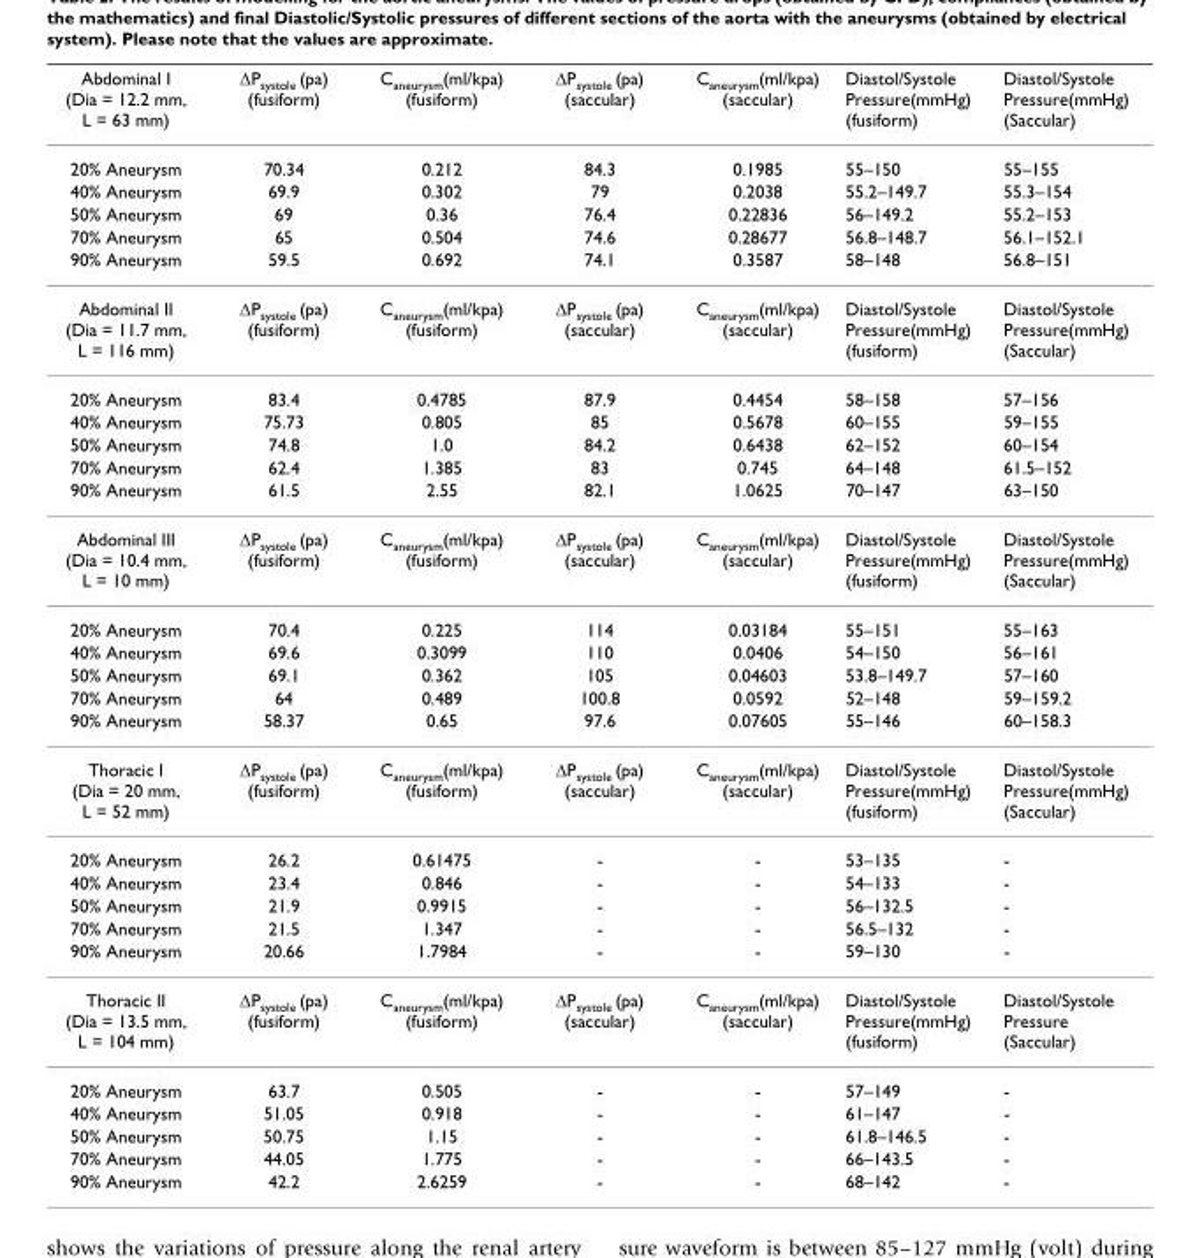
<table><thead><tr><td>Abdominal I (Dia = 12.2 mm, L = 63 mm)</td><td>∆Psystole (pa) (fusiform)</td><td>Caneurysm(ml/kpa) (fusiform)</td><td>∆Psystole (pa) (saccular)</td><td>Caneurysm(ml/kpa) (saccular)</td><td>Diastol/Systole Pressure(mmHg) (fusiform)</td><td>Diastol/Systole Pressure(mmHg) (Saccular)</td></tr></thead><tbody><tr><td>20% Aneurysm</td><td>70.34</td><td>0.212</td><td>84.3</td><td>0.1985</td><td>55–150</td><td>55–155</td></tr><tr><td>40% Aneurysm</td><td>69.9</td><td>0.302</td><td>79</td><td>0.2038</td><td>55.2–149.7</td><td>55.3–154</td></tr><tr><td>50% Aneurysm</td><td>69</td><td>0.36</td><td>76.4</td><td>0.22836</td><td>56–149.2</td><td>55.2–153</td></tr><tr><td>70% Aneurysm</td><td>65</td><td>0.504</td><td>74.6</td><td>0.28677</td><td>56.8–148.7</td><td>56.1–152.1</td></tr><tr><td>90% Aneurysm</td><td>59.5</td><td>0.692</td><td>74.1</td><td>0.3587</td><td>58–148</td><td>56.8–151</td></tr><tr><td>Abdominal II (Dia = 11.7 mm, L = 116 mm)</td><td>∆Psystole (pa) (fusiform)</td><td>Caneurysm(ml/kpa) (fusiform)</td><td>∆Psystole (pa) (saccular)</td><td>Caneurysm(ml/kpa) (saccular)</td><td>Diastol/Systole Pressure(mmHg) (fusiform)</td><td>Diastol/Systole Pressure(mmHg) (Saccular)</td></tr><tr><td>20% Aneurysm</td><td>83.4</td><td>0.4785</td><td>87.9</td><td>0.4454</td><td>58–158</td><td>57–156</td></tr><tr><td>40% Aneurysm</td><td>75.73</td><td>0.805</td><td>85</td><td>0.5678</td><td>60–155</td><td>59–155</td></tr><tr><td>50% Aneurysm</td><td>74.8</td><td>1.0</td><td>84.2</td><td>0.6438</td><td>62–152</td><td>60–154</td></tr><tr><td>70% Aneurysm</td><td>62.4</td><td>1.385</td><td>83</td><td>0.745</td><td>64–148</td><td>61.5–152</td></tr><tr><td>90% Aneurysm</td><td>61.5</td><td>2.55</td><td>82.1</td><td>1.0625</td><td>70–147</td><td>63–150</td></tr><tr><td>Abdominal III (Dia = 10.4 mm, L = 10 mm)</td><td>∆Psystole (pa) (fusiform)</td><td>Caneurysm(ml/kpa) (fusiform)</td><td>∆Psystole (pa) (saccular)</td><td>Caneurysm(ml/kpa) (saccular)</td><td>Diastol/Systole Pressure(mmHg) (fusiform)</td><td>Diastol/Systole Pressure(mmHg) (Saccular)</td></tr><tr><td>20% Aneurysm</td><td>70.4</td><td>0.225</td><td>114</td><td>0.03184</td><td>55–151</td><td>55–163</td></tr><tr><td>40% Aneurysm</td><td>69.6</td><td>0.3099</td><td>110</td><td>0.0406</td><td>54–150</td><td>56–161</td></tr><tr><td>50% Aneurysm</td><td>69.1</td><td>0.362</td><td>105</td><td>0.04603</td><td>53.8–149.7</td><td>57–160</td></tr><tr><td>70% Aneurysm</td><td>64</td><td>0.489</td><td>100.8</td><td>0.0592</td><td>52–148</td><td>59–159.2</td></tr><tr><td>90% Aneurysm</td><td>58.37</td><td>0.65</td><td>97.6</td><td>0.07605</td><td>55–146</td><td>60–158.3</td></tr><tr><td>Thoracic I (Dia = 20 mm, L = 52 mm)</td><td>∆Psystole (pa) (fusiform)</td><td>Caneurysm(ml/kpa) (fusiform)</td><td>∆Psystole (pa) (saccular)</td><td>Caneurysm(ml/kpa) (saccular)</td><td>Diastol/Systole Pressure(mmHg) (fusiform)</td><td>Diastol/Systole Pressure(mmHg) (Saccular)</td></tr><tr><td>20% Aneurysm</td><td>26.2</td><td>0.61475</td><td>-</td><td>-</td><td>53–135</td><td>-</td></tr><tr><td>40% Aneurysm</td><td>23.4</td><td>0.846</td><td>-</td><td>-</td><td>54–133</td><td>-</td></tr><tr><td>50% Aneurysm</td><td>21.9</td><td>0.9915</td><td>-</td><td>-</td><td>56–132.5</td><td>-</td></tr><tr><td>70% Aneurysm</td><td>21.5</td><td>1.347</td><td>-</td><td>-</td><td>56.5–132</td><td>-</td></tr><tr><td>90% Aneurysm</td><td>20.66</td><td>1.7984</td><td>-</td><td>-</td><td>59–130</td><td>-</td></tr><tr><td>Thoracic II (Dia = 13.5 mm, L = 104 mm)</td><td>∆Psystole (pa) (fusiform)</td><td>Caneurysm(ml/kpa) (fusiform)</td><td>∆Psystole (pa) (saccular)</td><td>Caneurysm(ml/kpa) (saccular)</td><td>Diastol/Systole Pressure(mmHg) (fusiform)</td><td>Diastol/Systole Pressure (Saccular)</td></tr><tr><td>20% Aneurysm</td><td>63.7</td><td>0.505</td><td>-</td><td>-</td><td>57–149</td><td>-</td></tr><tr><td>40% Aneurysm</td><td>51.05</td><td>0.918</td><td>-</td><td>-</td><td>61–147</td><td>-</td></tr><tr><td>50% Aneurysm</td><td>50.75</td><td>1.15</td><td>-</td><td>-</td><td>61.8–146.5</td><td>-</td></tr><tr><td>70% Aneurysm</td><td>44.05</td><td>1.775</td><td>-</td><td>-</td><td>66–143.5</td><td>-</td></tr><tr><td>90% Aneurysm</td><td>42.2</td><td>2.6259</td><td>-</td><td>-</td><td>68–142</td><td>-</td></tr></tbody></table>